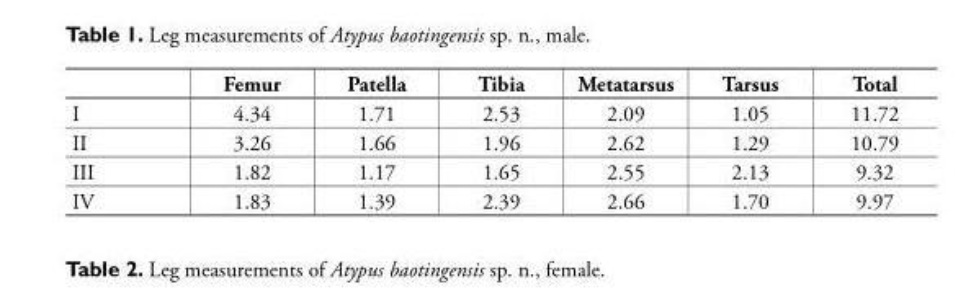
<table><thead><tr><td></td><td>Femur</td><td>Patella</td><td>Tibia</td><td>Metatarsus</td><td>Tarsus</td><td>Total</td></tr></thead><tbody><tr><td>I</td><td>4.34</td><td>1.71</td><td>2.53</td><td>2.09</td><td>1.05</td><td>11.72</td></tr><tr><td>II</td><td>3.26</td><td>1.66</td><td>1.96</td><td>2.62</td><td>1.29</td><td>10.79</td></tr><tr><td>III</td><td>1.82</td><td>1.17</td><td>1.65</td><td>2.55</td><td>2.13</td><td>9.32</td></tr><tr><td>IV</td><td>1.83</td><td>1.39</td><td>2.39</td><td>2.66</td><td>1.70</td><td>9.97</td></tr></tbody></table>